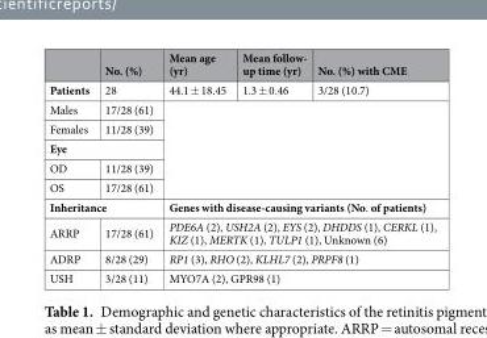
<table><thead><tr><td></td><td>No. (%)</td><td>Mean age (yr)</td><td>Mean follow- up time (yr)</td><td>No. (%) with CME</td></tr></thead><tbody><tr><td>Patients</td><td>28</td><td>44.1 ± 18.45</td><td>1.3 ± 0.46</td><td>3/28 (10.7)</td></tr><tr><td>Males</td><td>17/28 (61)</td><td rowspan="5" colspan="3"></td></tr><tr><td>Females</td><td>11/28 (39)</td></tr><tr><td colspan="2">Eye</td></tr><tr><td>OD</td><td>11/28 (39)</td></tr><tr><td>OS</td><td>17/28 (61)</td></tr><tr><td colspan="2">Inheritance</td><td colspan="3">Genes with disease-causing variants (No. of patients)</td></tr><tr><td>ARRP</td><td>17/28 (61)</td><td colspan="3">PDE6A (2), USH2A (2), EYS (2), DHDDS (1), CERKL (1), KIZ (1), MERTK (1), TULP1 (1), Unknown (6)</td></tr><tr><td>ADRP</td><td>8/28 (29)</td><td colspan="3">RP1 (3), RHO (2), KLHL7 (2), PRPF8 (1)</td></tr><tr><td>USH</td><td>3/28 (11)</td><td colspan="3">MYO7A (2), GPR98 (1)</td></tr></tbody></table>